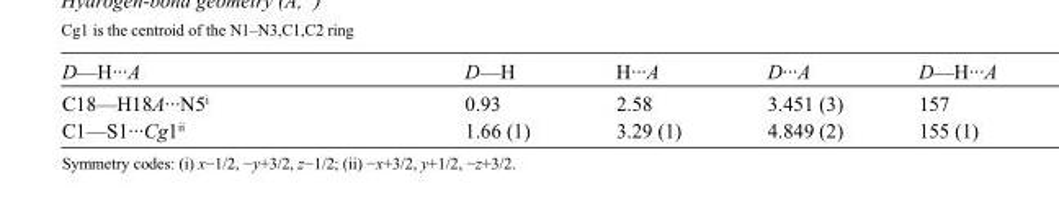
<table><tbody><tr><td>D—H···A</td><td>D—H</td><td>H···A</td><td>D···A</td><td>D—H···A</td></tr><tr><td>C18—H18A···N5<sup>i</sup></td><td>0.93</td><td>2.58</td><td>3.451 (3)</td><td>157</td></tr><tr><td>C1—S1···Cg1<sup>ii</sup></td><td>1.66 (1)</td><td>3.29 (1)</td><td>4.849 (2)</td><td>155 (1)</td></tr></tbody></table>